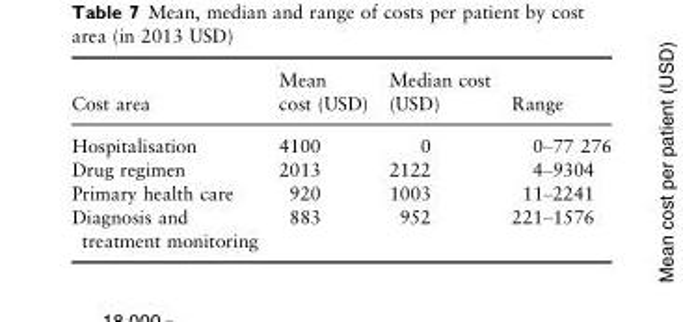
<table><thead><tr><td>Cost area</td><td>Mean cost (USD)</td><td>Median cost (USD)</td><td>Range</td></tr></thead><tbody><tr><td>Hospitalisation</td><td>4100</td><td>0</td><td>0–77 276</td></tr><tr><td>Drug regimen</td><td>2013</td><td>2122</td><td>4–9304</td></tr><tr><td>Primary health care</td><td>920</td><td>1003</td><td>11–2241</td></tr><tr><td>Diagnosis and treatment monitoring</td><td>883</td><td>952</td><td>221–1576</td></tr></tbody></table>